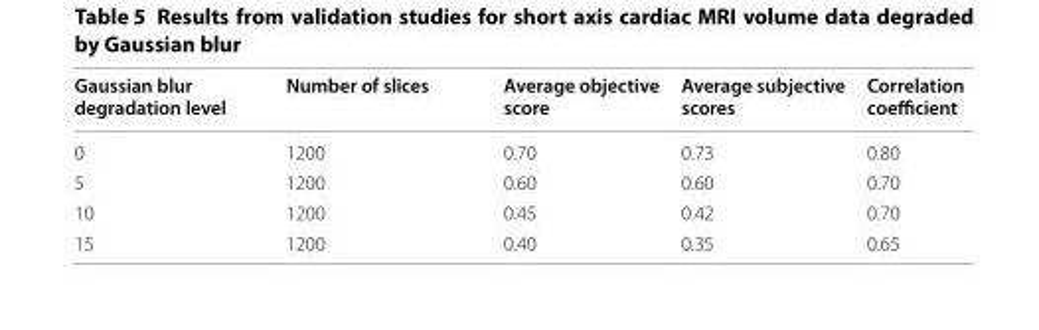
<table><thead><tr><td>Gaussian blur degradation level</td><td>Number of slices</td><td>Average objective score</td><td>Average subjective scores</td><td>Correlation coefficient</td></tr></thead><tbody><tr><td>0</td><td>1200</td><td>0.70</td><td>0.73</td><td>0.80</td></tr><tr><td>5</td><td>1200</td><td>0.60</td><td>0.60</td><td>0.70</td></tr><tr><td>10</td><td>1200</td><td>0.45</td><td>0.42</td><td>0.70</td></tr><tr><td>15</td><td>1200</td><td>0.40</td><td>0.35</td><td>0.65</td></tr></tbody></table>